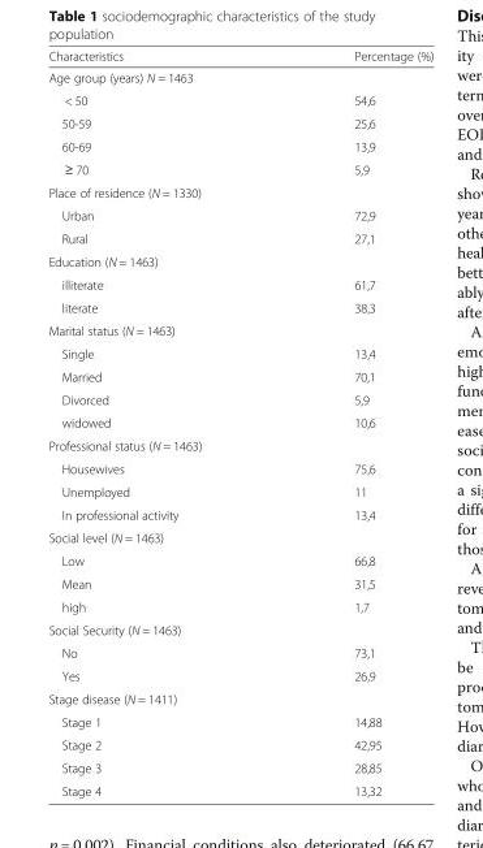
<table><thead><tr><td>Characteristics</td><td>Percentage (%)</td></tr></thead><tbody><tr><td colspan="2">Age group (years) N = 1463</td></tr><tr><td>&lt; 50</td><td>54,6</td></tr><tr><td>50-59</td><td>25,6</td></tr><tr><td>60-69</td><td>13,9</td></tr><tr><td>≥ 70</td><td>5,9</td></tr><tr><td colspan="2">Place of residence (N = 1330)</td></tr><tr><td>Urban</td><td>72,9</td></tr><tr><td>Rural</td><td>27,1</td></tr><tr><td colspan="2">Education (N = 1463)</td></tr><tr><td>illiterate</td><td>61,7</td></tr><tr><td>literate</td><td>38,3</td></tr><tr><td colspan="2">Marital status (N = 1463)</td></tr><tr><td>Single</td><td>13,4</td></tr><tr><td>Married</td><td>70,1</td></tr><tr><td>Divorced</td><td>5,9</td></tr><tr><td>widowed</td><td>10,6</td></tr><tr><td colspan="2">Professional status (N = 1463)</td></tr><tr><td>Housewives</td><td>75,6</td></tr><tr><td>Unemployed</td><td>11</td></tr><tr><td>In professional activity</td><td>13,4</td></tr><tr><td colspan="2">Social level (N = 1463)</td></tr><tr><td>Low</td><td>66,8</td></tr><tr><td>Mean</td><td>31,5</td></tr><tr><td>high</td><td>1,7</td></tr><tr><td colspan="2">Social Security (N = 1463)</td></tr><tr><td>No</td><td>73,1</td></tr><tr><td>Yes</td><td>26,9</td></tr><tr><td colspan="2">Stage disease (N = 1411)</td></tr><tr><td>Stage 1</td><td>14,88</td></tr><tr><td>Stage 2</td><td>42,95</td></tr><tr><td>Stage 3</td><td>28,85</td></tr><tr><td>Stage 4</td><td>13,32</td></tr></tbody></table>